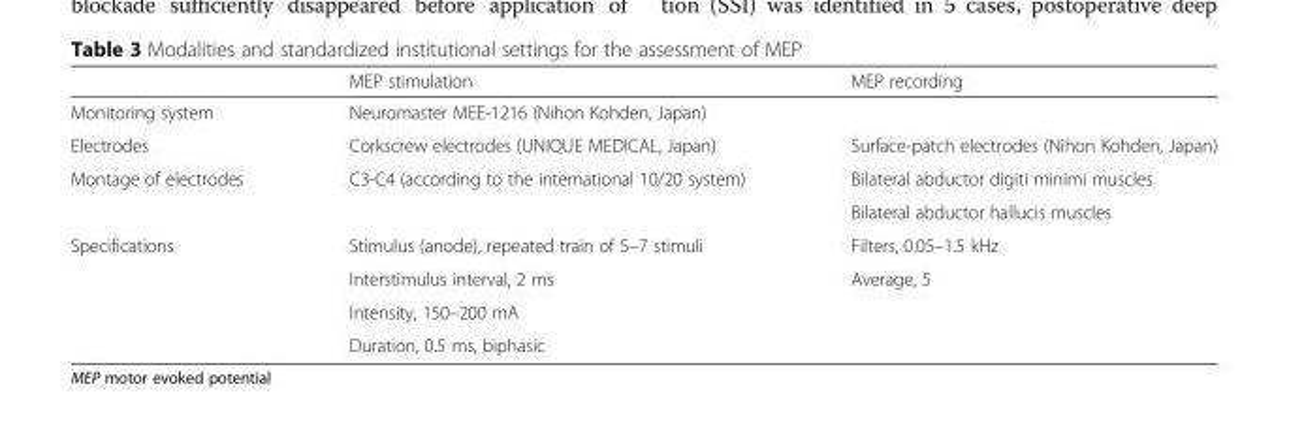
<table><thead><tr><td></td><td>MEP stimulation</td><td>MEP recording</td></tr></thead><tbody><tr><td>Monitoring system</td><td>Neuromaster MEE-1216 (Nihon Kohden, Japan)</td><td></td></tr><tr><td>Electrodes</td><td>Corkscrew electrodes (UNIQUE MEDICAL, Japan)</td><td>Surface-patch electrodes (Nihon Kohden, Japan)</td></tr><tr><td rowspan="2">Montage of electrodes</td><td rowspan="2">C3-C4 (according to the international 10/20 system)</td><td>Bilateral abductor digiti minimi muscles</td></tr><tr><td>Bilateral abductor hallucis muscles</td></tr><tr><td rowspan="4">Specifications</td><td>Stimulus (anode), repeated train of 5–7 stimuli</td><td>Filters, 0.05–1.5 kHz</td></tr><tr><td>Interstimulus interval, 2 ms</td><td>Average, 5</td></tr><tr><td>Intensity, 150–200 mA</td><td></td></tr><tr><td>Duration, 0.5 ms, biphasic</td><td></td></tr></tbody></table>